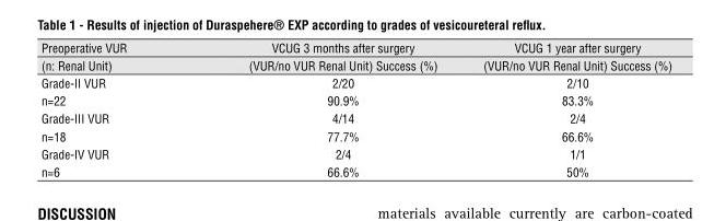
<table><thead><tr><td rowspan="2">Preoperative VUR (n: Renal Unit)</td><td rowspan="2">VCUG 3 months after surgery (VUR/no VUR Renal Unit) Success (%)</td><td rowspan="2">VCUG 1 year after surgery (VUR/no VUR Renal Unit) Success (%)</td></tr><tr></tr></thead><tbody><tr><td>Grade-II VUR</td><td>2/20</td><td>2/10</td></tr><tr><td>n=22</td><td>90.9%</td><td>83.3%</td></tr><tr><td>Grade-III VUR</td><td>4/14</td><td>2/4</td></tr><tr><td>n=18</td><td>77.7%</td><td>66.6%</td></tr><tr><td>Grade-IV VUR</td><td>2/4</td><td>1/1</td></tr><tr><td>n=6</td><td>66.6%</td><td>50%</td></tr></tbody></table>